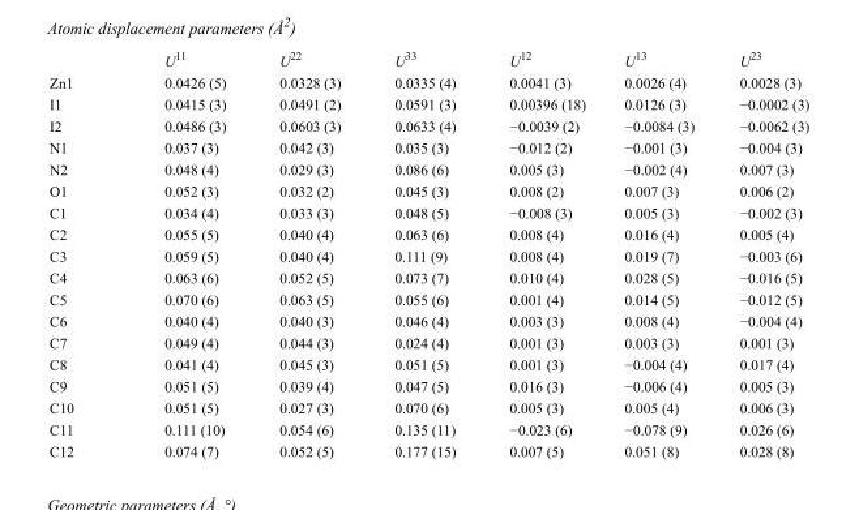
<table><thead><tr><td></td><td>U<sup>11</sup></td><td>U<sup>22</sup></td><td>U<sup>33</sup></td><td>U<sup>12</sup></td><td>U<sup>13</sup></td><td>U<sup>23</sup></td></tr></thead><tbody><tr><td>Zn1</td><td>0.0426 (5)</td><td>0.0328 (3)</td><td>0.0335 (4)</td><td>0.0041 (3)</td><td>0.0026 (4)</td><td>0.0028 (3)</td></tr><tr><td>I1</td><td>0.0415 (3)</td><td>0.0491 (2)</td><td>0.0591 (3)</td><td>0.00396 (18)</td><td>0.0126 (3)</td><td>−0.0002 (3)</td></tr><tr><td>I2</td><td>0.0486 (3)</td><td>0.0603 (3)</td><td>0.0633 (4)</td><td>−0.0039 (2)</td><td>−0.0084 (3)</td><td>−0.0062 (3)</td></tr><tr><td>N1</td><td>0.037 (3)</td><td>0.042 (3)</td><td>0.035 (3)</td><td>−0.012 (2)</td><td>−0.001 (3)</td><td>−0.004 (3)</td></tr><tr><td>N2</td><td>0.048 (4)</td><td>0.029 (3)</td><td>0.086 (6)</td><td>0.005 (3)</td><td>−0.002 (4)</td><td>0.007 (3)</td></tr><tr><td>O1</td><td>0.052 (3)</td><td>0.032 (2)</td><td>0.045 (3)</td><td>0.008 (2)</td><td>0.007 (3)</td><td>0.006 (2)</td></tr><tr><td>C1</td><td>0.034 (4)</td><td>0.033 (3)</td><td>0.048 (5)</td><td>−0.008 (3)</td><td>0.005 (3)</td><td>−0.002 (3)</td></tr><tr><td>C2</td><td>0.055 (5)</td><td>0.040 (4)</td><td>0.063 (6)</td><td>0.008 (4)</td><td>0.016 (4)</td><td>0.005 (4)</td></tr><tr><td>C3</td><td>0.059 (5)</td><td>0.040 (4)</td><td>0.111 (9)</td><td>0.008 (4)</td><td>0.019 (7)</td><td>−0.003 (6)</td></tr><tr><td>C4</td><td>0.063 (6)</td><td>0.052 (5)</td><td>0.073 (7)</td><td>0.010 (4)</td><td>0.028 (5)</td><td>−0.016 (5)</td></tr><tr><td>C5</td><td>0.070 (6)</td><td>0.063 (5)</td><td>0.055 (6)</td><td>0.001 (4)</td><td>0.014 (5)</td><td>−0.012 (5)</td></tr><tr><td>C6</td><td>0.040 (4)</td><td>0.040 (3)</td><td>0.046 (4)</td><td>0.003 (3)</td><td>0.008 (4)</td><td>−0.004 (4)</td></tr><tr><td>C7</td><td>0.049 (4)</td><td>0.044 (3)</td><td>0.024 (4)</td><td>0.001 (3)</td><td>0.003 (3)</td><td>0.001 (3)</td></tr><tr><td>C8</td><td>0.041 (4)</td><td>0.045 (3)</td><td>0.051 (5)</td><td>0.001 (3)</td><td>−0.004 (4)</td><td>0.017 (4)</td></tr><tr><td>C9</td><td>0.051 (5)</td><td>0.039 (4)</td><td>0.047 (5)</td><td>0.016 (3)</td><td>−0.006 (4)</td><td>0.005 (3)</td></tr><tr><td>C10</td><td>0.051 (5)</td><td>0.027 (3)</td><td>0.070 (6)</td><td>0.005 (3)</td><td>0.005 (4)</td><td>0.006 (3)</td></tr><tr><td>C11</td><td>0.111 (10)</td><td>0.054 (6)</td><td>0.135 (11)</td><td>−0.023 (6)</td><td>−0.078 (9)</td><td>0.026 (6)</td></tr><tr><td>C12</td><td>0.074 (7)</td><td>0.052 (5)</td><td>0.177 (15)</td><td>0.007 (5)</td><td>0.051 (8)</td><td>0.028 (8)</td></tr></tbody></table>